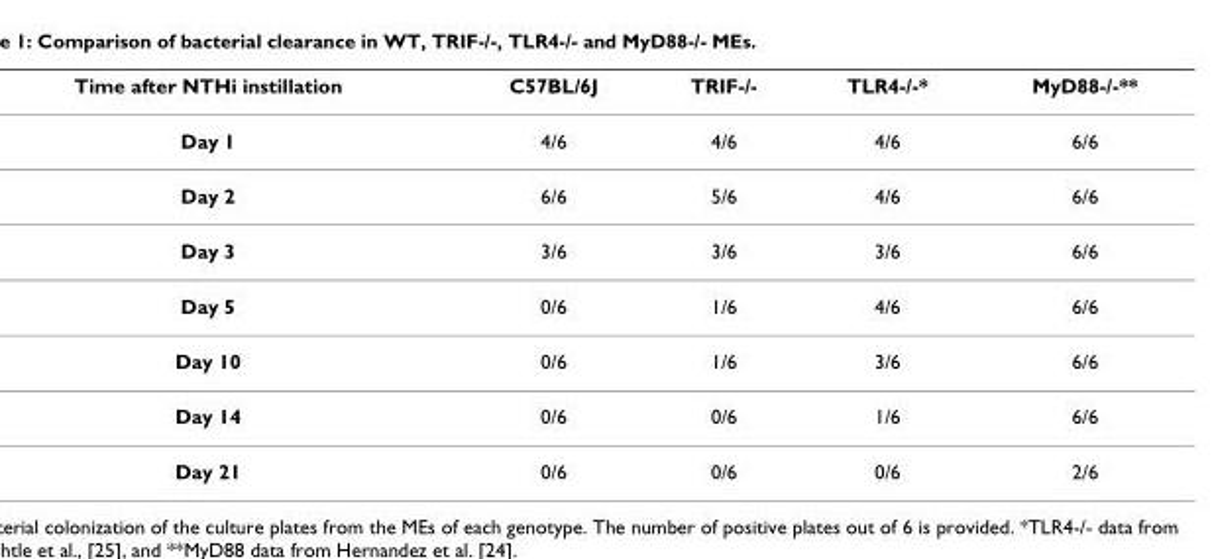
<table><thead><tr><td>Time after NTHi instillation</td><td>C57BL/6J</td><td>TRIF-/-</td><td>TLR4-/-*</td><td>MyD88-/-**</td></tr></thead><tbody><tr><td>Day 1</td><td>4/6</td><td>4/6</td><td>4/6</td><td>6/6</td></tr><tr><td>Day 2</td><td>6/6</td><td>5/6</td><td>4/6</td><td>6/6</td></tr><tr><td>Day 3</td><td>3/6</td><td>3/6</td><td>3/6</td><td>6/6</td></tr><tr><td>Day 5</td><td>0/6</td><td>1/6</td><td>4/6</td><td>6/6</td></tr><tr><td>Day 10</td><td>0/6</td><td>1/6</td><td>3/6</td><td>6/6</td></tr><tr><td>Day 14</td><td>0/6</td><td>0/6</td><td>1/6</td><td>6/6</td></tr><tr><td>Day 21</td><td>0/6</td><td>0/6</td><td>0/6</td><td>2/6</td></tr></tbody></table>